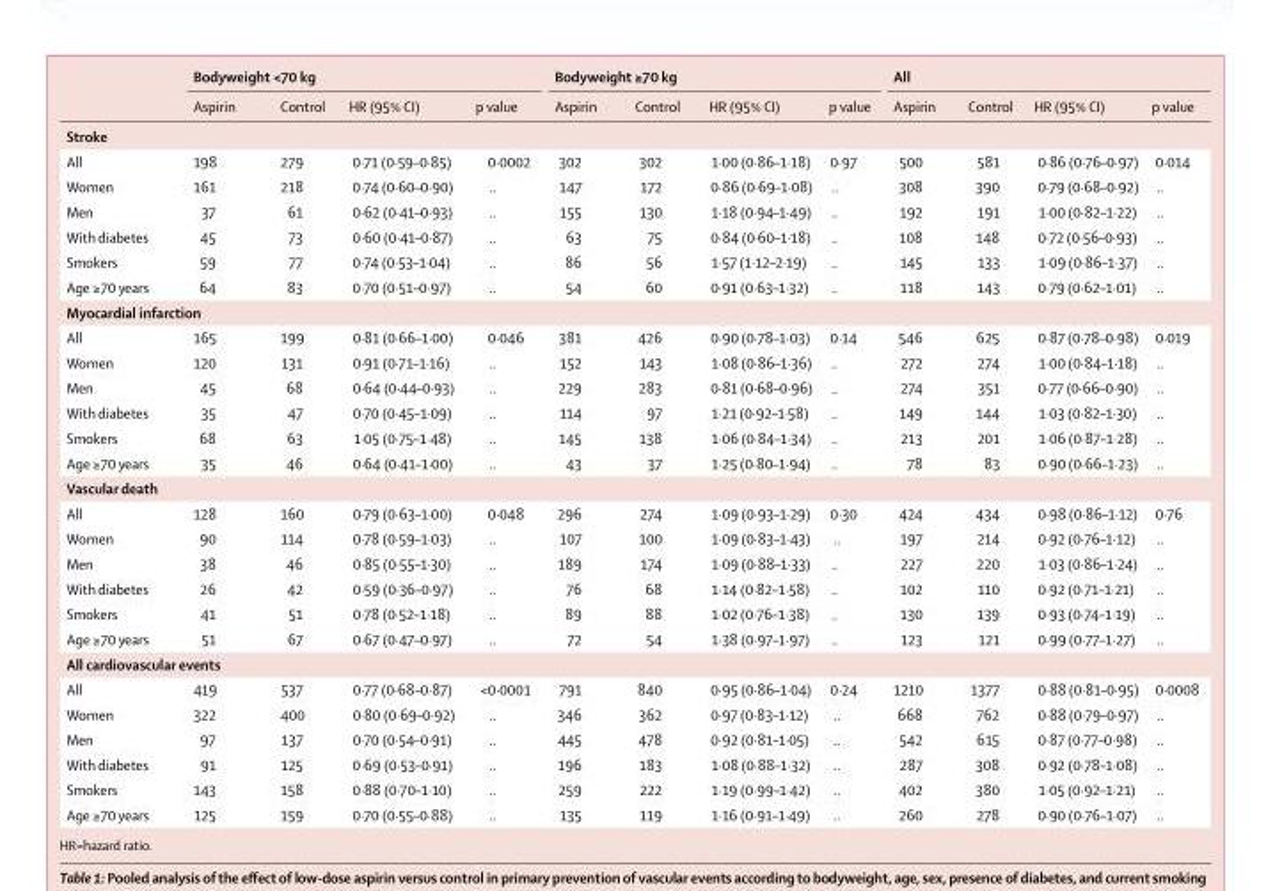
<table><thead><tr><td rowspan="2"></td><td colspan="4">Bodyweight &lt;70 kg</td><td colspan="4">Bodyweight ≥70 kg</td><td colspan="4">All</td></tr><tr><td>Aspirin</td><td>Control</td><td>HR (95% CI)</td><td>p value</td><td>Aspirin</td><td>Control</td><td>HR (95% CI)</td><td>p value</td><td>Aspirin</td><td>Control</td><td>HR (95% CI)</td><td>p value</td></tr></thead><tbody><tr><td colspan="13">Stroke</td></tr><tr><td>All</td><td>198</td><td>279</td><td>0·71 (0·59–0·85)</td><td>0·0002</td><td>302</td><td>302</td><td>1·00 (0·86–1·18)</td><td>0·97</td><td>500</td><td>581</td><td>0·86 (0·76–0·97)</td><td>0·014</td></tr><tr><td>Women</td><td>161</td><td>218</td><td>0·74 (0·60–0·90)</td><td>..</td><td>147</td><td>172</td><td>0·86 (0·69–1·08)</td><td>..</td><td>308</td><td>390</td><td>0·79 (0·68–0·92)</td><td>..</td></tr><tr><td>Men</td><td>37</td><td>61</td><td>0·62 (0·41–0·93)</td><td>..</td><td>155</td><td>130</td><td>1·18 (0·94–1·49)</td><td>..</td><td>192</td><td>191</td><td>1·00 (0·82–1·22)</td><td>..</td></tr><tr><td>With diabetes</td><td>45</td><td>73</td><td>0·60 (0·41–0·87)</td><td>..</td><td>63</td><td>75</td><td>0·84 (0·60–1·18)</td><td>..</td><td>108</td><td>148</td><td>0·72 (0·56–0·93)</td><td>..</td></tr><tr><td>Smokers</td><td>59</td><td>77</td><td>0·74 (0·53–1·04)</td><td>..</td><td>86</td><td>56</td><td>1·57 (1·12–2·19)</td><td>..</td><td>145</td><td>133</td><td>1·09 (0·86–1·37)</td><td>..</td></tr><tr><td>Age ≥70 years</td><td>64</td><td>83</td><td>0·70 (0·51–0·97)</td><td>..</td><td>54</td><td>60</td><td>0·91 (0·63–1·32)</td><td>..</td><td>118</td><td>143</td><td>0·79 (0·62–1·01)</td><td>..</td></tr><tr><td colspan="13">Myocardial infarction</td></tr><tr><td>All</td><td>165</td><td>199</td><td>0·81 (0·66–1·00)</td><td>0·046</td><td>381</td><td>426</td><td>0·90 (0·78–1·03)</td><td>0·14</td><td>546</td><td>625</td><td>0·87 (0·78–0·98)</td><td>0·019</td></tr><tr><td>Women</td><td>120</td><td>131</td><td>0·91 (0·71–1·16)</td><td>..</td><td>152</td><td>143</td><td>1·08 (0·86–1·36)</td><td>..</td><td>272</td><td>274</td><td>1·00 (0·84–1·18)</td><td>..</td></tr><tr><td>Men</td><td>45</td><td>68</td><td>0·64 (0·44–0·93)</td><td>..</td><td>229</td><td>283</td><td>0·81 (0·68–0·96)</td><td>..</td><td>274</td><td>351</td><td>0·77 (0·66–0·90)</td><td>..</td></tr><tr><td>With diabetes</td><td>35</td><td>47</td><td>0·70 (0·45–1·09)</td><td>..</td><td>114</td><td>97</td><td>1·21 (0·92–1·58)</td><td>..</td><td>149</td><td>144</td><td>1·03 (0·82–1·30)</td><td>..</td></tr><tr><td>Smokers</td><td>68</td><td>63</td><td>1·05 (0·75–1·48)</td><td>..</td><td>145</td><td>138</td><td>1·06 (0·84–1·34)</td><td>..</td><td>213</td><td>201</td><td>1·06 (0·87–1·28)</td><td>..</td></tr><tr><td>Age ≥70 years</td><td>35</td><td>46</td><td>0·64 (0·41–1·00)</td><td>..</td><td>43</td><td>37</td><td>1·25 (0·80–1·94)</td><td>..</td><td>78</td><td>83</td><td>0·90 (0·66–1·23)</td><td>..</td></tr><tr><td colspan="13">Vascular death</td></tr><tr><td>All</td><td>128</td><td>160</td><td>0·79 (0·63–1·00)</td><td>0·048</td><td>296</td><td>274</td><td>1·09 (0·93–1·29)</td><td>0·30</td><td>424</td><td>434</td><td>0·98 (0·86–1·12)</td><td>0·76</td></tr><tr><td>Women</td><td>90</td><td>114</td><td>0·78 (0·59–1·03)</td><td>..</td><td>107</td><td>100</td><td>1·09 (0·83–1·43)</td><td>..</td><td>197</td><td>214</td><td>0·92 (0·76–1·12)</td><td>..</td></tr><tr><td>Men</td><td>38</td><td>46</td><td>0·85 (0·55–1·30)</td><td>..</td><td>189</td><td>174</td><td>1·09 (0·88–1·33)</td><td>..</td><td>227</td><td>220</td><td>1·03 (0·86–1·24)</td><td>..</td></tr><tr><td>With diabetes</td><td>26</td><td>42</td><td>0·59 (0·36–0·97)</td><td>..</td><td>76</td><td>68</td><td>1·14 (0·82–1·58)</td><td>..</td><td>102</td><td>110</td><td>0·92 (0·71–1·21)</td><td>..</td></tr><tr><td>Smokers</td><td>41</td><td>51</td><td>0·78 (0·52–1·18)</td><td>..</td><td>89</td><td>88</td><td>1·02 (0·76–1·38)</td><td>..</td><td>130</td><td>139</td><td>0·93 (0·74–1·19)</td><td>..</td></tr><tr><td>Age ≥70 years</td><td>51</td><td>67</td><td>0·67 (0·47–0·97)</td><td>..</td><td>72</td><td>54</td><td>1·38 (0·97–1·97)</td><td>..</td><td>123</td><td>121</td><td>0·99 (0·77–1·27)</td><td>..</td></tr><tr><td colspan="13">All cardiovascular events</td></tr><tr><td>All</td><td>419</td><td>537</td><td>0·77 (0·68–0·87)</td><td>&lt;0·0001</td><td>791</td><td>840</td><td>0·95 (0·86–1·04)</td><td>0·24</td><td>1210</td><td>1377</td><td>0·88 (0·81–0·95)</td><td>0·0008</td></tr><tr><td>Women</td><td>322</td><td>400</td><td>0·80 (0·69–0·92)</td><td>..</td><td>346</td><td>362</td><td>0·97 (0·83–1·12)</td><td>..</td><td>668</td><td>762</td><td>0·88 (0·79–0·97)</td><td>..</td></tr><tr><td>Men</td><td>97</td><td>137</td><td>0·70 (0·54–0·91)</td><td>..</td><td>445</td><td>478</td><td>0·92 (0·81–1·05)</td><td>..</td><td>542</td><td>615</td><td>0·87 (0·77–0·98)</td><td>..</td></tr><tr><td>With diabetes</td><td>91</td><td>125</td><td>0·69 (0·53–0·91)</td><td>..</td><td>196</td><td>183</td><td>1·08 (0·88–1·32)</td><td>..</td><td>287</td><td>308</td><td>0·92 (0·78–1·08)</td><td>..</td></tr><tr><td>Smokers</td><td>143</td><td>158</td><td>0·88 (0·70–1·10)</td><td>..</td><td>259</td><td>222</td><td>1·19 (0·99–1·42)</td><td>..</td><td>402</td><td>380</td><td>1·05 (0·92–1·21)</td><td>..</td></tr><tr><td>Age ≥70 years</td><td>125</td><td>159</td><td>0·70 (0·55–0·88)</td><td>..</td><td>135</td><td>119</td><td>1·16 (0·91–1·49)</td><td>..</td><td>260</td><td>278</td><td>0·90 (0·76–1·07)</td><td>..</td></tr></tbody></table>